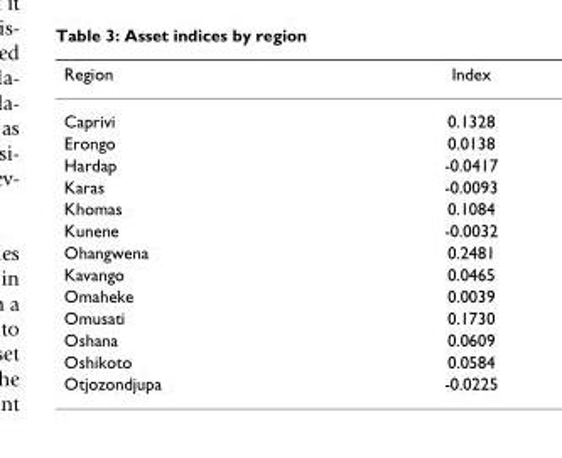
<table><thead><tr><td>Region</td><td>Index</td></tr></thead><tbody><tr><td>Caprivi</td><td>0.1328</td></tr><tr><td>Erongo</td><td>0.0138</td></tr><tr><td>Hardap</td><td>-0.0417</td></tr><tr><td>Karas</td><td>-0.0093</td></tr><tr><td>Khomas</td><td>0.1084</td></tr><tr><td>Kunene</td><td>-0.0032</td></tr><tr><td>Ohangwena</td><td>0.2481</td></tr><tr><td>Kavango</td><td>0.0465</td></tr><tr><td>Omaheke</td><td>0.0039</td></tr><tr><td>Omusati</td><td>0.1730</td></tr><tr><td>Oshana</td><td>0.0609</td></tr><tr><td>Oshikoto</td><td>0.0584</td></tr><tr><td>Otjozondjupa</td><td>-0.0225</td></tr></tbody></table>